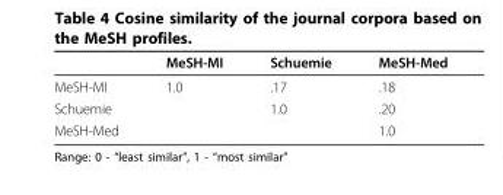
<table><thead><tr><td></td><td>MeSH-MI</td><td>Schuemie</td><td>MeSH-Med</td></tr></thead><tbody><tr><td>MeSH-MI</td><td>1.0</td><td>.17</td><td>.18</td></tr><tr><td>Schuemie</td><td></td><td>1.0</td><td>.20</td></tr><tr><td>MeSH-Med</td><td></td><td></td><td>1.0</td></tr></tbody></table>